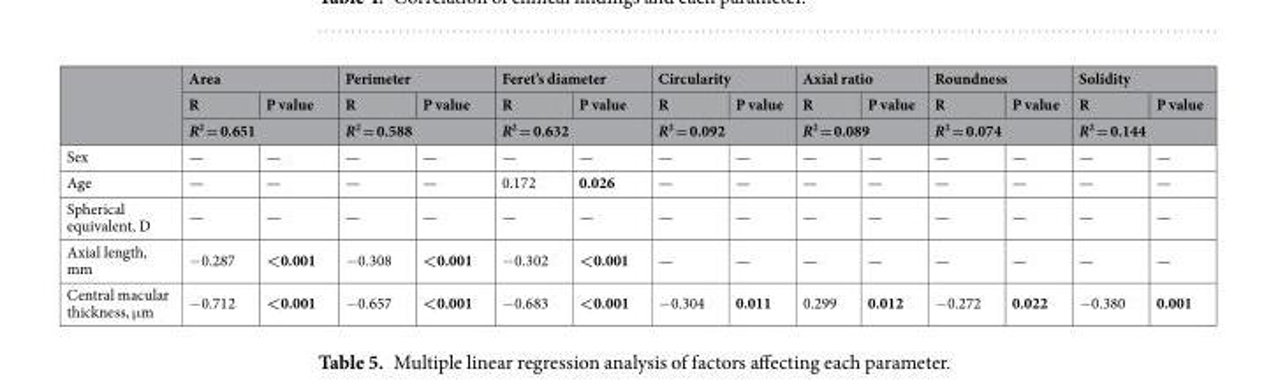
<table><thead><tr><td rowspan="3"></td><td colspan="2">Area</td><td colspan="2">Perimeter</td><td colspan="2">Feret’s diameter</td><td colspan="2">Circularity</td><td colspan="2">Axial ratio</td><td colspan="2">Roundness</td><td colspan="2">Solidity</td></tr><tr><td>R</td><td>P value</td><td>R</td><td>P value</td><td>R</td><td>P value</td><td>R</td><td>P value</td><td>R</td><td>P value</td><td>R</td><td>P value</td><td>R</td><td>P value</td></tr><tr><td colspan="2">R<sup>2</sup> = 0.651</td><td colspan="2">R<sup>2</sup> = 0.588</td><td colspan="2">R<sup>2</sup> = 0.632</td><td colspan="2">R<sup>2</sup> = 0.092</td><td colspan="2">R<sup>2</sup> = 0.089</td><td colspan="2">R<sup>2</sup> = 0.074</td><td colspan="2">R<sup>2</sup> = 0.144</td></tr></thead><tbody><tr><td>Sex</td><td>—</td><td>—</td><td>—</td><td>—</td><td>—</td><td>—</td><td>—</td><td>—</td><td>—</td><td>—</td><td>—</td><td>—</td><td>—</td><td>—</td></tr><tr><td>Age</td><td>—</td><td>—</td><td>—</td><td>—</td><td>0.172</td><td>0.026</td><td>—</td><td>—</td><td>—</td><td>—</td><td>—</td><td>—</td><td>—</td><td>—</td></tr><tr><td>Spherical equivalent, D</td><td>—</td><td>—</td><td>—</td><td>—</td><td>—</td><td>—</td><td>—</td><td>—</td><td>—</td><td>—</td><td>—</td><td>—</td><td>—</td><td>—</td></tr><tr><td>Axial length, mm</td><td>−0.287</td><td>&lt;0.001</td><td>−0.308</td><td>&lt;0.001</td><td>−0.302</td><td>&lt;0.001</td><td>—</td><td>—</td><td>—</td><td>—</td><td>—</td><td>—</td><td>—</td><td>—</td></tr><tr><td>Central macular thickness, μm</td><td>−0.712</td><td>&lt;0.001</td><td>−0.657</td><td>&lt;0.001</td><td>−0.683</td><td>&lt;0.001</td><td>−0.304</td><td>0.011</td><td>0.299</td><td>0.012</td><td>−0.272</td><td>0.022</td><td>−0.380</td><td>0.001</td></tr></tbody></table>